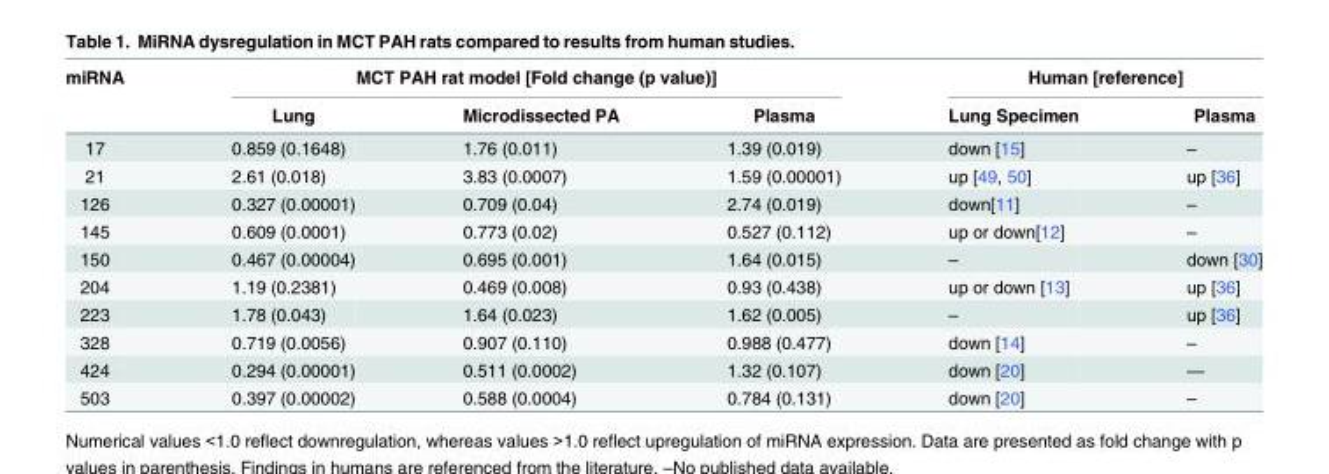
<table><thead><tr><td rowspan="2">miRNA</td><td colspan="3">MCT PAH rat model [Fold change (p value)]</td><td colspan="2">Human [reference]</td></tr><tr><td>Lung</td><td>Microdissected PA</td><td>Plasma</td><td>Lung Specimen</td><td>Plasma</td></tr></thead><tbody><tr><td>17</td><td>0.859 (0.1648)</td><td>1.76 (0.011)</td><td>1.39 (0.019)</td><td>down [15]</td><td>–</td></tr><tr><td>21</td><td>2.61 (0.018)</td><td>3.83 (0.0007)</td><td>1.59 (0.00001)</td><td>up [49, 50]</td><td>up [36]</td></tr><tr><td>126</td><td>0.327 (0.00001)</td><td>0.709 (0.04)</td><td>2.74 (0.019)</td><td>down[11]</td><td>–</td></tr><tr><td>145</td><td>0.609 (0.0001)</td><td>0.773 (0.02)</td><td>0.527 (0.112)</td><td>up or down[12]</td><td>–</td></tr><tr><td>150</td><td>0.467 (0.00004)</td><td>0.695 (0.001)</td><td>1.64 (0.015)</td><td>–</td><td>down [30]</td></tr><tr><td>204</td><td>1.19 (0.2381)</td><td>0.469 (0.008)</td><td>0.93 (0.438)</td><td>up or down [13]</td><td>up [36]</td></tr><tr><td>223</td><td>1.78 (0.043)</td><td>1.64 (0.023)</td><td>1.62 (0.005)</td><td>–</td><td>up [36]</td></tr><tr><td>328</td><td>0.719 (0.0056)</td><td>0.907 (0.110)</td><td>0.988 (0.477)</td><td>down [14]</td><td>–</td></tr><tr><td>424</td><td>0.294 (0.00001)</td><td>0.511 (0.0002)</td><td>1.32 (0.107)</td><td>down [20]</td><td>—</td></tr><tr><td>503</td><td>0.397 (0.00002)</td><td>0.588 (0.0004)</td><td>0.784 (0.131)</td><td>down [20]</td><td>–</td></tr></tbody></table>